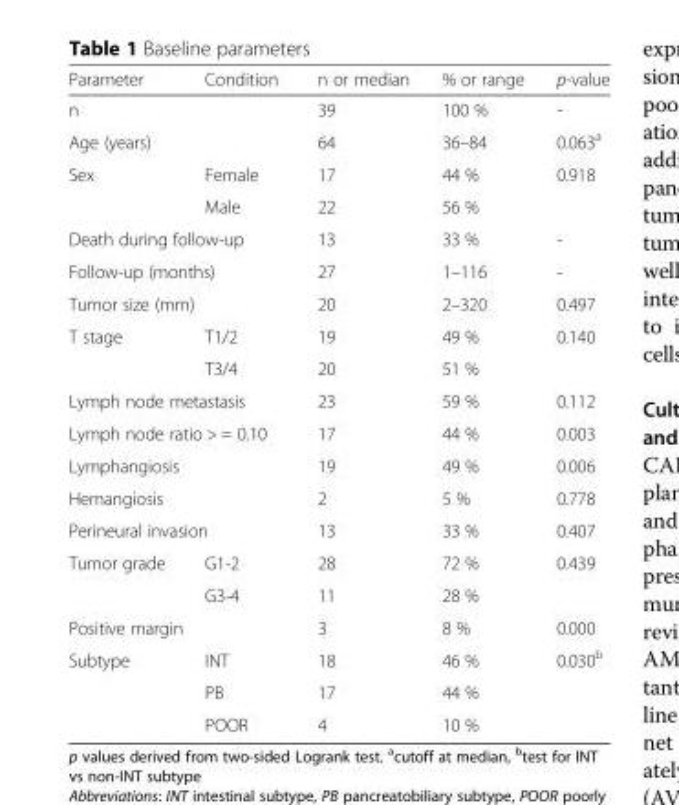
<table><thead><tr><td>Parameter</td><td>Condition</td><td>n or median</td><td>% or range</td><td>p-value</td></tr></thead><tbody><tr><td colspan="2">n</td><td>39</td><td>100 %</td><td>-</td></tr><tr><td colspan="2">Age (years)</td><td>64</td><td>36–84</td><td>0.063<sup>a</sup></td></tr><tr><td rowspan="2">Sex</td><td>Female</td><td>17</td><td>44 %</td><td rowspan="2">0.918</td></tr><tr><td>Male</td><td>22</td><td>56 %</td></tr><tr><td colspan="2">Death during follow-up</td><td>13</td><td>33 %</td><td>-</td></tr><tr><td colspan="2">Follow-up (months)</td><td>27</td><td>1–116</td><td>-</td></tr><tr><td colspan="2">Tumor size (mm)</td><td>20</td><td>2–320</td><td>0.497</td></tr><tr><td rowspan="2">T stage</td><td>T1/2</td><td>19</td><td>49 %</td><td rowspan="2">0.140</td></tr><tr><td>T3/4</td><td>20</td><td>51 %</td></tr><tr><td colspan="2">Lymph node metastasis</td><td>23</td><td>59 %</td><td>0.112</td></tr><tr><td colspan="2">Lymph node ratio &gt; = 0.10</td><td>17</td><td>44 %</td><td>0.003</td></tr><tr><td colspan="2">Lymphangiosis</td><td>19</td><td>49 %</td><td>0.006</td></tr><tr><td colspan="2">Hemangiosis</td><td>2</td><td>5 %</td><td>0.778</td></tr><tr><td colspan="2">Perineural invasion</td><td>13</td><td>33 %</td><td>0.407</td></tr><tr><td rowspan="2">Tumor grade</td><td>G1-2</td><td>28</td><td>72 %</td><td rowspan="2">0.439</td></tr><tr><td>G3-4</td><td>11</td><td>28 %</td></tr><tr><td colspan="2">Positive margin</td><td>3</td><td>8 %</td><td>0.000</td></tr><tr><td rowspan="3">Subtype</td><td>INT</td><td>18</td><td>46 %</td><td rowspan="3">0.030<sup>b</sup></td></tr><tr><td>PB</td><td>17</td><td>44 %</td></tr><tr><td>POOR</td><td>4</td><td>10 %</td></tr></tbody></table>